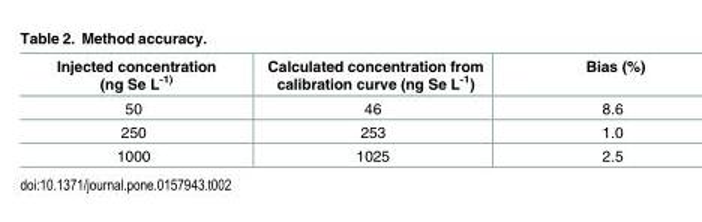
<table><thead><tr><td>Injected concentration (ng Se L<sup>-1)</sup></td><td>Calculated concentration from calibration curve (ng Se L<sup>-1</sup>)</td><td>Bias (%)</td></tr></thead><tbody><tr><td>50</td><td>46</td><td>8.6</td></tr><tr><td>250</td><td>253</td><td>1.0</td></tr><tr><td>1000</td><td>1025</td><td>2.5</td></tr></tbody></table>